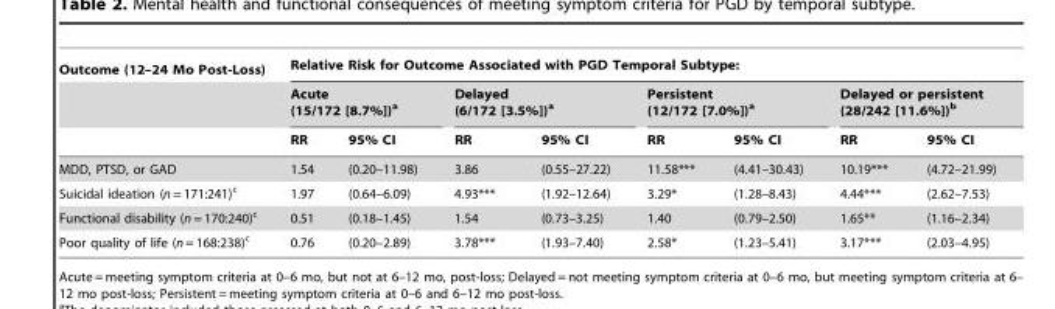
<table><thead><tr><td rowspan="3">Outcome (12–24 Mo Post-Loss)</td><td colspan="8">Relative Risk for Outcome Associated with PGD Temporal Subtype:</td></tr><tr><td colspan="2">Acute (15/172 [8.7%])<sup>a</sup></td><td colspan="2">Delayed (6/172 [3.5%])<sup>a</sup></td><td colspan="2">Persistent (12/172 [7.0%])<sup>a</sup></td><td colspan="2">Delayed or persistent (28/242 [11.6%])<sup>b</sup></td></tr><tr><td>RR</td><td>95% CI</td><td>RR</td><td>95% CI</td><td>RR</td><td>95% CI</td><td>RR</td><td>95% CI</td></tr></thead><tbody><tr><td>MDD, PTSD, or GAD</td><td>1.54</td><td>(0.20–11.98)</td><td>3.86</td><td>(0.55–27.22)</td><td>11.58***</td><td>(4.41–30.43)</td><td>10.19***</td><td>(4.72–21.99)</td></tr><tr><td>Suicidal ideation (n = 171:241)<sup>c</sup></td><td>1.97</td><td>(0.64–6.09)</td><td>4.93***</td><td>(1.92–12.64)</td><td>3.29*</td><td>(1.28–8.43)</td><td>4.44***</td><td>(2.62–7.53)</td></tr><tr><td>Functional disability (n = 170:240)<sup>c</sup></td><td>0.51</td><td>(0.18–1.45)</td><td>1.54</td><td>(0.73–3.25)</td><td>1.40</td><td>(0.79–2.50)</td><td>1.65**</td><td>(1.16–2.34)</td></tr><tr><td>Poor quality of life (n = 168:238)<sup>c</sup></td><td>0.76</td><td>(0.20–2.89)</td><td>3.78***</td><td>(1.93–7.40)</td><td>2.58*</td><td>(1.23–5.41)</td><td>3.17***</td><td>(2.03–4.95)</td></tr></tbody></table>